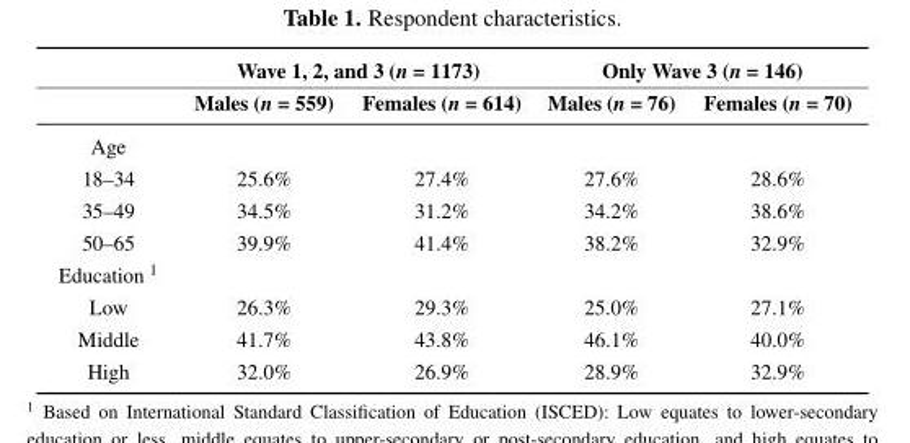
<table><thead><tr><td rowspan="2"></td><td colspan="2">Wave 1, 2, and 3 (n = 1173)</td><td colspan="2">Only Wave 3 (n = 146)</td></tr><tr><td>Males (n = 559)</td><td>Females (n = 614)</td><td>Males (n = 76)</td><td>Females (n = 70)</td></tr></thead><tbody><tr><td colspan="5">Age</td></tr><tr><td>18–34</td><td>25.6%</td><td>27.4%</td><td>27.6%</td><td>28.6%</td></tr><tr><td>35–49</td><td>34.5%</td><td>31.2%</td><td>34.2%</td><td>38.6%</td></tr><tr><td>50–65</td><td>39.9%</td><td>41.4%</td><td>38.2%</td><td>32.9%</td></tr><tr><td colspan="5">Education <sup>1</sup></td></tr><tr><td>Low</td><td>26.3%</td><td>29.3%</td><td>25.0%</td><td>27.1%</td></tr><tr><td>Middle</td><td>41.7%</td><td>43.8%</td><td>46.1%</td><td>40.0%</td></tr><tr><td>High</td><td>32.0%</td><td>26.9%</td><td>28.9%</td><td>32.9%</td></tr></tbody></table>